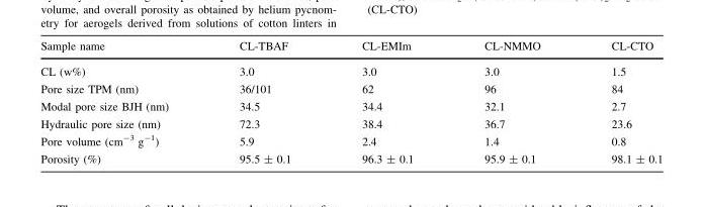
<table><thead><tr><td>Sample name</td><td>CL-TBAF</td><td>CL-EMIm</td><td>CL-NMMO</td><td>CL-CTO</td></tr></thead><tbody><tr><td>CL (w%)</td><td>3.0</td><td>3.0</td><td>3.0</td><td>1.5</td></tr><tr><td>Pore size TPM (nm)</td><td>36/101</td><td>62</td><td>96</td><td>84</td></tr><tr><td>Modal pore size BJH (nm)</td><td>34.5</td><td>34.4</td><td>32.1</td><td>2.7</td></tr><tr><td>Hydraulic pore size (nm)</td><td>72.3</td><td>38.4</td><td>36.7</td><td>23.6</td></tr><tr><td>Pore volume (cm<sup>-3</sup> g<sup>-1</sup>)</td><td>5.9</td><td>2.4</td><td>1.4</td><td>0.8</td></tr><tr><td>Porosity (%)</td><td>95.5 ± 0.1</td><td>96.3 ± 0.1</td><td>95.9 ± 0.1</td><td>98.1 ± 0.1</td></tr></tbody></table>